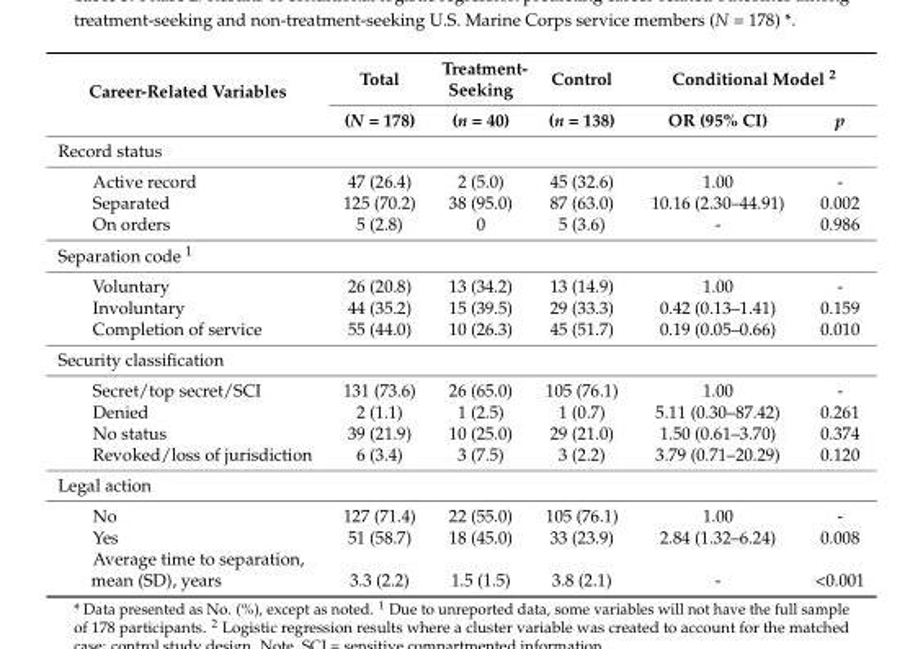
<table><thead><tr><td rowspan="2">Career-Related Variables</td><td rowspan="2">Total (N = 178)</td><td rowspan="2">Treatment- Seeking (n = 40)</td><td rowspan="2">Control (n = 138)</td><td colspan="2">Conditional Model <sup>2</sup></td></tr><tr><td>OR (95% CI)</td><td>p</td></tr></thead><tbody><tr><td colspan="6">Record status</td></tr><tr><td>Active record</td><td>47 (26.4)</td><td>2 (5.0)</td><td>45 (32.6)</td><td>1.00</td><td>-</td></tr><tr><td>Separated</td><td>125 (70.2)</td><td>38 (95.0)</td><td>87 (63.0)</td><td>10.16 (2.30–44.91)</td><td>0.002</td></tr><tr><td>On orders</td><td>5 (2.8)</td><td>0</td><td>5 (3.6)</td><td>-</td><td>0.986</td></tr><tr><td colspan="6">Separation code <sup>1</sup></td></tr><tr><td>Voluntary</td><td>26 (20.8)</td><td>13 (34.2)</td><td>13 (14.9)</td><td>1.00</td><td>-</td></tr><tr><td>Involuntary</td><td>44 (35.2)</td><td>15 (39.5)</td><td>29 (33.3)</td><td>0.42 (0.13–1.41)</td><td>0.159</td></tr><tr><td>Completion of service</td><td>55 (44.0)</td><td>10 (26.3)</td><td>45 (51.7)</td><td>0.19 (0.05–0.66)</td><td>0.010</td></tr><tr><td colspan="6">Security classification</td></tr><tr><td>Secret/top secret/SCI</td><td>131 (73.6)</td><td>26 (65.0)</td><td>105 (76.1)</td><td>1.00</td><td>-</td></tr><tr><td>Denied</td><td>2 (1.1)</td><td>1 (2.5)</td><td>1 (0.7)</td><td>5.11 (0.30–87.42)</td><td>0.261</td></tr><tr><td>No status</td><td>39 (21.9)</td><td>10 (25.0)</td><td>29 (21.0)</td><td>1.50 (0.61–3.70)</td><td>0.374</td></tr><tr><td>Revoked/loss of jurisdiction</td><td>6 (3.4)</td><td>3 (7.5)</td><td>3 (2.2)</td><td>3.79 (0.71–20.29)</td><td>0.120</td></tr><tr><td colspan="6">Legal action</td></tr><tr><td>No</td><td>127 (71.4)</td><td>22 (55.0)</td><td>105 (76.1)</td><td>1.00</td><td>-</td></tr><tr><td>Yes</td><td>51 (58.7)</td><td>18 (45.0)</td><td>33 (23.9)</td><td>2.84 (1.32–6.24)</td><td>0.008</td></tr><tr><td>Average time to separation, mean (SD), years</td><td>3.3 (2.2)</td><td>1.5 (1.5)</td><td>3.8 (2.1)</td><td>-</td><td>&lt;0.001</td></tr></tbody></table>